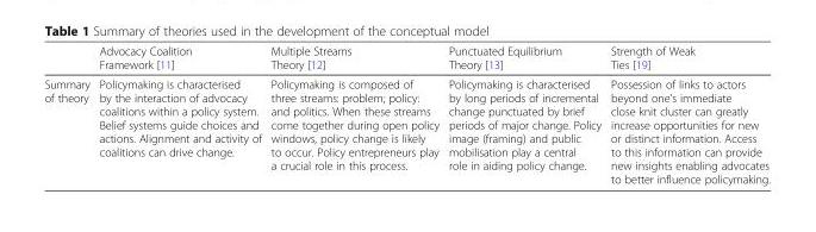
<table><thead><tr><td></td><td>Advocacy Coalition Framework [11]</td><td>Multiple Streams Theory [12]</td><td>Punctuated Equilibrium Theory [13]</td><td>Strength of Weak Ties [19]</td></tr></thead><tbody><tr><td>Summary of theory</td><td>Policymaking is characterised by the interaction of advocacy coalitions within a policy system. Belief systems guide choices and actions. Alignment and activity of coalitions can drive change.</td><td>Policymaking is composed of three streams: problem; policy: and politics. When these streams come together during open policy windows, policy change is likely to occur. Policy entrepreneurs play a crucial role in this process.</td><td>Policymaking is characterised by long periods of incremental change punctuated by brief periods of major change. Policy image (framing) and public mobilisation play a central role in aiding policy change.</td><td>Possession of links to actors beyond one’s immediate close knit cluster can greatly increase opportunities for new or distinct information. Access to this information can provide new insights enabling advocates to better influence policymaking.</td></tr></tbody></table>